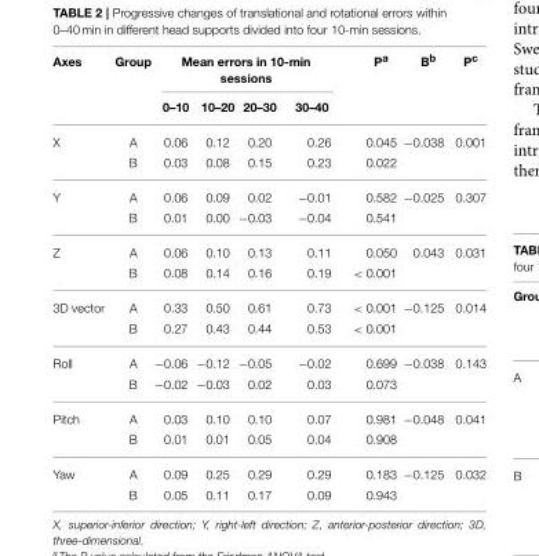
<table><thead><tr><td rowspan="2">Axes</td><td rowspan="2">Group</td><td colspan="4">Mean errors in 10-min sessions</td><td rowspan="2">P<sup>a</sup></td><td rowspan="2">B<sup>b</sup></td><td rowspan="2">P<sup>c</sup></td></tr><tr><td>0–10</td><td>10–20</td><td>20–30</td><td>30–40</td></tr></thead><tbody><tr><td rowspan="2">X</td><td>A</td><td>0.06</td><td>0.12</td><td>0.20</td><td>0.26</td><td>0.045</td><td>−0.038</td><td>0.001</td></tr><tr><td>B</td><td>0.03</td><td>0.08</td><td>0.15</td><td>0.23</td><td>0.022</td><td></td><td></td></tr><tr><td rowspan="2">Y</td><td>A</td><td>0.06</td><td>0.09</td><td>0.02</td><td>−0.01</td><td>0.582</td><td>−0.025</td><td>0.307</td></tr><tr><td>B</td><td>0.01</td><td>0.00</td><td>−0.03</td><td>−0.04</td><td>0.541</td><td></td><td></td></tr><tr><td rowspan="2">Z</td><td>A</td><td>0.06</td><td>0.10</td><td>0.13</td><td>0.11</td><td>0.050</td><td>0.043</td><td>0.031</td></tr><tr><td>B</td><td>0.08</td><td>0.14</td><td>0.16</td><td>0.19</td><td>&lt; 0.001</td><td></td><td></td></tr><tr><td rowspan="2">3D vector</td><td>A</td><td>0.33</td><td>0.50</td><td>0.61</td><td>0.73</td><td>&lt; 0.001</td><td>−0.125</td><td>0.014</td></tr><tr><td>B</td><td>0.27</td><td>0.43</td><td>0.44</td><td>0.53</td><td>&lt; 0.001</td><td></td><td></td></tr><tr><td rowspan="2">Roll</td><td>A</td><td>−0.06</td><td>−0.12</td><td>−0.05</td><td>−0.02</td><td>0.699</td><td>−0.038</td><td>0.143</td></tr><tr><td>B</td><td>−0.02</td><td>−0.03</td><td>0.02</td><td>0.03</td><td>0.073</td><td></td><td></td></tr><tr><td rowspan="2">Pitch</td><td>A</td><td>0.03</td><td>0.10</td><td>0.10</td><td>0.07</td><td>0.981</td><td>−0.048</td><td>0.041</td></tr><tr><td>B</td><td>0.01</td><td>0.01</td><td>0.05</td><td>0.04</td><td>0.908</td><td></td><td></td></tr><tr><td rowspan="2">Yaw</td><td>A</td><td>0.09</td><td>0.25</td><td>0.29</td><td>0.29</td><td>0.183</td><td>−0.125</td><td>0.032</td></tr><tr><td>B</td><td>0.05</td><td>0.11</td><td>0.17</td><td>0.09</td><td>0.943</td><td></td><td></td></tr></tbody></table>